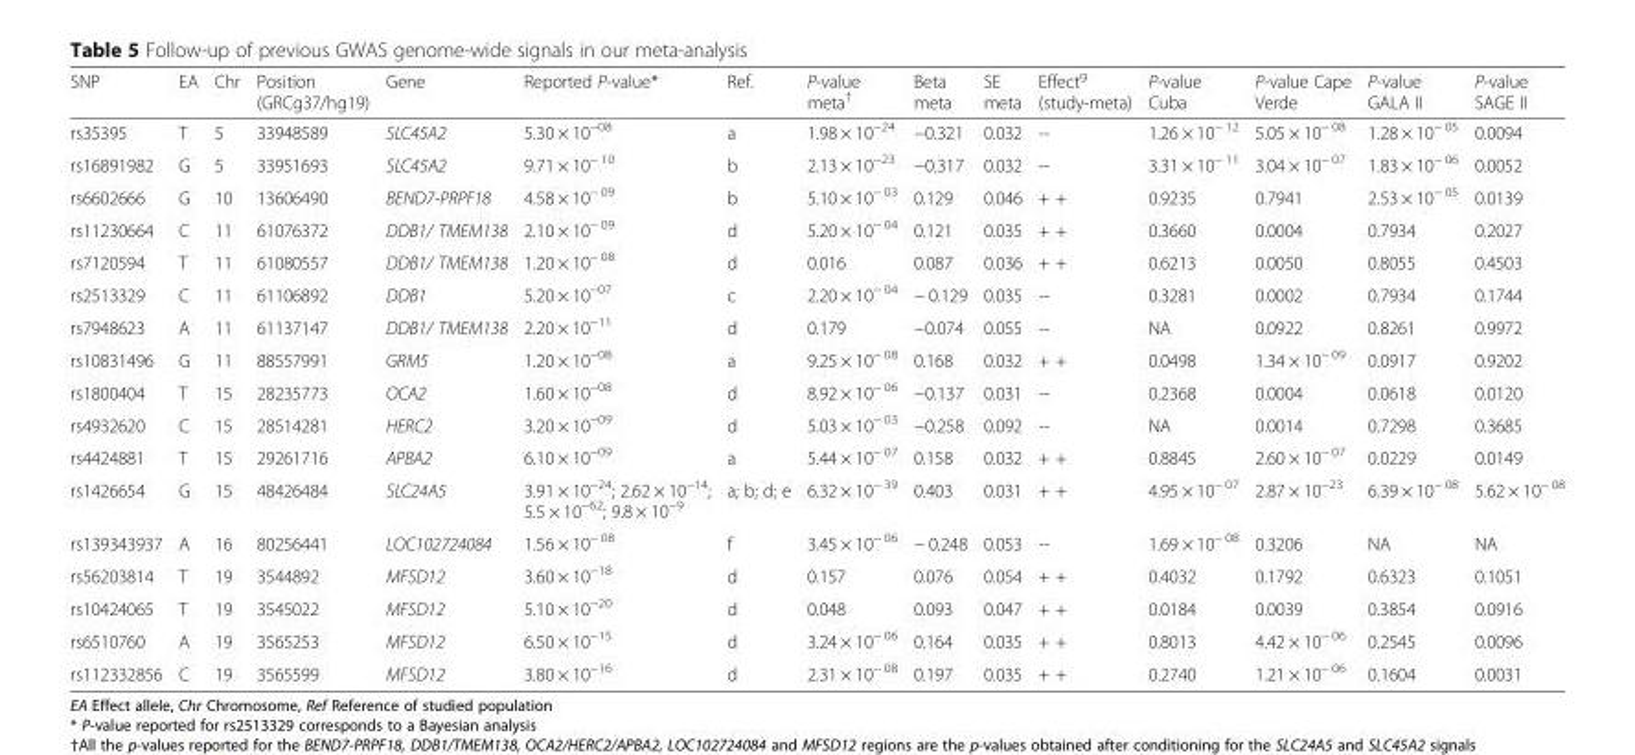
<table><thead><tr><td>SNP</td><td>EA</td><td>Chr</td><td>Position (GRCg37/hg19)</td><td>Gene</td><td>Reported P-value*</td><td>Ref.</td><td>P-value meta<sup>†</sup></td><td>Beta meta</td><td>SE meta</td><td>Effect<sup>g</sup> (study-meta)</td><td>P-value Cuba</td><td>P-value Cape Verde</td><td>P-value GALA II</td><td>P-value SAGE II</td></tr></thead><tbody><tr><td>rs35395</td><td>T</td><td>5</td><td>33948589</td><td>SLC45A2</td><td>5.30 × 10<sup>−08</sup></td><td>a</td><td>1.98 × 10<sup>−24</sup></td><td>−0.321</td><td>0.032</td><td>--</td><td>1.26 × 10<sup>− 12</sup></td><td>5.05 × 10<sup>− 08</sup></td><td>1.28 × 10<sup>− 05</sup></td><td>0.0094</td></tr><tr><td>rs16891982</td><td>G</td><td>5</td><td>33951693</td><td>SLC45A2</td><td>9.71 × 10<sup>− 10</sup></td><td>b</td><td>2.13 × 10<sup>−23</sup></td><td>−0.317</td><td>0.032</td><td>--</td><td>3.31 × 10<sup>− 11</sup></td><td>3.04 × 10<sup>− 07</sup></td><td>1.83 × 10<sup>− 06</sup></td><td>0.0052</td></tr><tr><td>rs6602666</td><td>G</td><td>10</td><td>13606490</td><td>BEND7-PRPF18</td><td>4.58 × 10<sup>− 09</sup></td><td>b</td><td>5.10 × 10<sup>− 03</sup></td><td>0.129</td><td>0.046</td><td>+ +</td><td>0.9235</td><td>0.7941</td><td>2.53 × 10<sup>− 05</sup></td><td>0.0139</td></tr><tr><td>rs11230664</td><td>C</td><td>11</td><td>61076372</td><td>DDB1/ TMEM138</td><td>2.10 × 10<sup>− 09</sup></td><td>d</td><td>5.20 × 10<sup>− 04</sup></td><td>0.121</td><td>0.035</td><td>+ +</td><td>0.3660</td><td>0.0004</td><td>0.7934</td><td>0.2027</td></tr><tr><td>rs7120594</td><td>T</td><td>11</td><td>61080557</td><td>DDB1/ TMEM138</td><td>1.20 × 10<sup>− 08</sup></td><td>d</td><td>0.016</td><td>0.087</td><td>0.036</td><td>+ +</td><td>0.6213</td><td>0.0050</td><td>0.8055</td><td>0.4503</td></tr><tr><td>rs2513329</td><td>C</td><td>11</td><td>61106892</td><td>DDB1</td><td>5.20 × 10<sup>−07</sup></td><td>c</td><td>2.20 × 10<sup>− 04</sup></td><td>− 0.129</td><td>0.035</td><td>--</td><td>0.3281</td><td>0.0002</td><td>0.7934</td><td>0.1744</td></tr><tr><td>rs7948623</td><td>A</td><td>11</td><td>61137147</td><td>DDB1/ TMEM138</td><td>2.20 × 10<sup>−11</sup></td><td>d</td><td>0.179</td><td>−0.074</td><td>0.055</td><td>--</td><td>NA</td><td>0.0922</td><td>0.8261</td><td>0.9972</td></tr><tr><td>rs10831496</td><td>G</td><td>11</td><td>88557991</td><td>GRM5</td><td>1.20 × 10<sup>−08</sup></td><td>a</td><td>9.25 × 10<sup>− 08</sup></td><td>0.168</td><td>0.032</td><td>+ +</td><td>0.0498</td><td>1.34 × 10<sup>− 09</sup></td><td>0.0917</td><td>0.9202</td></tr><tr><td>rs1800404</td><td>T</td><td>15</td><td>28235773</td><td>OCA2</td><td>1.60 × 10<sup>−08</sup></td><td>d</td><td>8.92 × 10<sup>− 06</sup></td><td>−0.137</td><td>0.031</td><td>--</td><td>0.2368</td><td>0.0004</td><td>0.0618</td><td>0.0120</td></tr><tr><td>rs4932620</td><td>C</td><td>15</td><td>28514281</td><td>HERC2</td><td>3.20 × 10<sup>−09</sup></td><td>d</td><td>5.03 × 10<sup>− 03</sup></td><td>−0.258</td><td>0.092</td><td>--</td><td>NA</td><td>0.0014</td><td>0.7298</td><td>0.3685</td></tr><tr><td>rs4424881</td><td>T</td><td>15</td><td>29261716</td><td>APBA2</td><td>6.10 × 10<sup>−09</sup></td><td>a</td><td>5.44 × 10<sup>− 07</sup></td><td>0.158</td><td>0.032</td><td>+ +</td><td>0.8845</td><td>2.60 × 10<sup>− 07</sup></td><td>0.0229</td><td>0.0149</td></tr><tr><td>rs1426654</td><td>G</td><td>15</td><td>48426484</td><td>SLC24A5</td><td>3.91 × 10<sup>−24</sup>; 2.62 × 10<sup>−14</sup>; 5.5 × 10<sup>−62</sup>; 9.8 × 10<sup>−9</sup></td><td>a; b; d; e</td><td>6.32 × 10<sup>− 39</sup></td><td>0.403</td><td>0.031</td><td>+ +</td><td>4.95 × 10<sup>− 07</sup></td><td>2.87 × 10<sup>−23</sup></td><td>6.39 × 10<sup>− 08</sup></td><td>5.62 × 10<sup>− 08</sup></td></tr><tr><td>rs139343937</td><td>A</td><td>16</td><td>80256441</td><td>LOC102724084</td><td>1.56 × 10<sup>− 08</sup></td><td>f</td><td>3.45 × 10<sup>− 06</sup></td><td>− 0.248</td><td>0.053</td><td>--</td><td>1.69 × 10<sup>− 08</sup></td><td>0.3206</td><td>NA</td><td>NA</td></tr><tr><td>rs56203814</td><td>T</td><td>19</td><td>3544892</td><td>MFSD12</td><td>3.60 × 10<sup>−18</sup></td><td>d</td><td>0.157</td><td>0.076</td><td>0.054</td><td>+ +</td><td>0.4032</td><td>0.1792</td><td>0.6323</td><td>0.1051</td></tr><tr><td>rs10424065</td><td>T</td><td>19</td><td>3545022</td><td>MFSD12</td><td>5.10 × 10<sup>−20</sup></td><td>d</td><td>0.048</td><td>0.093</td><td>0.047</td><td>+ +</td><td>0.0184</td><td>0.0039</td><td>0.3854</td><td>0.0916</td></tr><tr><td>rs6510760</td><td>A</td><td>19</td><td>3565253</td><td>MFSD12</td><td>6.50 × 10<sup>−15</sup></td><td>d</td><td>3.24 × 10<sup>− 06</sup></td><td>0.164</td><td>0.035</td><td>+ +</td><td>0.8013</td><td>4.42 × 10<sup>− 06</sup></td><td>0.2545</td><td>0.0096</td></tr><tr><td>rs112332856</td><td>C</td><td>19</td><td>3565599</td><td>MFSD12</td><td>3.80 × 10<sup>−16</sup></td><td>d</td><td>2.31 × 10<sup>− 08</sup></td><td>0.197</td><td>0.035</td><td>+ +</td><td>0.2740</td><td>1.21 × 10<sup>− 06</sup></td><td>0.1604</td><td>0.0031</td></tr></tbody></table>